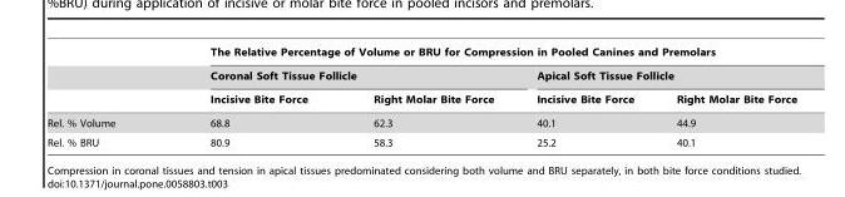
<table><thead><tr><td rowspan="3"></td><td colspan="4">The Relative Percentage of Volume or BRU for Compression in Pooled Canines and Premolars</td></tr><tr><td colspan="2">Coronal Soft Tissue Follicle</td><td colspan="2">Apical Soft Tissue Follicle</td></tr><tr><td>Incisive Bite Force</td><td>Right Molar Bite Force</td><td>Incisive Bite Force</td><td>Right Molar Bite Force</td></tr></thead><tbody><tr><td>Rel. % Volume</td><td>68.8</td><td>62.3</td><td>40.1</td><td>44.9</td></tr><tr><td>Rel. % BRU</td><td>80.9</td><td>58.3</td><td>25.2</td><td>40.1</td></tr></tbody></table>